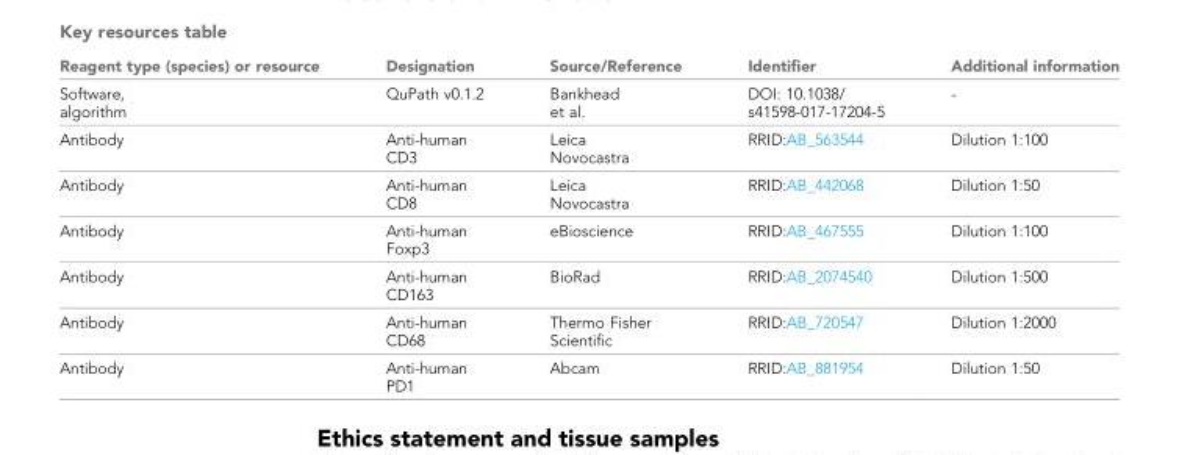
<table><thead><tr><td>Reagent type (species) or resource</td><td>Designation</td><td>Source/Reference</td><td>Identifier</td><td>Additional information</td></tr></thead><tbody><tr><td>Software, algorithm</td><td>QuPath v0.1.2</td><td>Bankhead et al.</td><td>DOI: 10.1038/ s41598-017-17204-5</td><td>-</td></tr><tr><td>Antibody</td><td>Anti-human CD3</td><td>Leica Novocastra</td><td>RRID:AB_563544</td><td>Dilution 1:100</td></tr><tr><td>Antibody</td><td>Anti-human CD8</td><td>Leica Novocastra</td><td>RRID:AB_442068</td><td>Dilution 1:50</td></tr><tr><td>Antibody</td><td>Anti-human Foxp3</td><td>eBioscience</td><td>RRID:AB_467555</td><td>Dilution 1:100</td></tr><tr><td>Antibody</td><td>Anti-human CD163</td><td>BioRad</td><td>RRID:AB_2074540</td><td>Dilution 1:500</td></tr><tr><td>Antibody</td><td>Anti-human CD68</td><td>Thermo Fisher Scientific</td><td>RRID:AB_720547</td><td>Dilution 1:2000</td></tr><tr><td>Antibody</td><td>Anti-human PD1</td><td>Abcam</td><td>RRID:AB_881954</td><td>Dilution 1:50</td></tr></tbody></table>